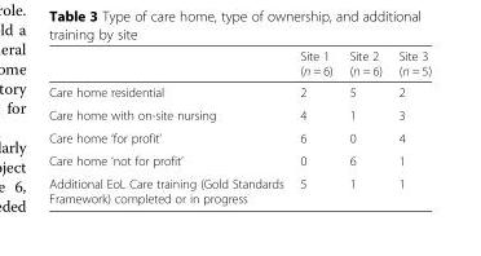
<table><thead><tr><td></td><td>Site 1 (n = 6)</td><td>Site 2 (n = 6)</td><td>Site 3 (n = 5)</td></tr></thead><tbody><tr><td>Care home residential</td><td>2</td><td>5</td><td>2</td></tr><tr><td>Care home with on-site nursing</td><td>4</td><td>1</td><td>3</td></tr><tr><td>Care home ‘for profit’</td><td>6</td><td>0</td><td>4</td></tr><tr><td>Care home ‘not for profit’</td><td>0</td><td>6</td><td>1</td></tr><tr><td>Additional EoL Care training (Gold Standards Framework) completed or in progress</td><td>5</td><td>1</td><td>1</td></tr></tbody></table>